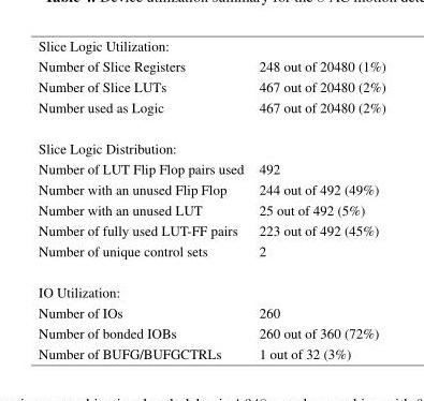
<table><tbody><tr><td colspan="2">Slice Logic Utilization:</td></tr><tr><td>Number of Slice Registers</td><td>248 out of 20480 (1%)</td></tr><tr><td>Number of Slice LUTs</td><td>467 out of 20480 (2%)</td></tr><tr><td>Number used as Logic</td><td>467 out of 20480 (2%)</td></tr><tr><td colspan="2">Slice Logic Distribution:</td></tr><tr><td>Number of LUT Flip Flop pairs used</td><td>492</td></tr><tr><td>Number with an unused Flip Flop</td><td>244 out of 492 (49%)</td></tr><tr><td>Number with an unused LUT</td><td>25 out of 492 (5%)</td></tr><tr><td>Number of fully used LUT-FF pairs</td><td>223 out of 492 (45%)</td></tr><tr><td>Number of unique control sets</td><td>2</td></tr><tr><td colspan="2">IO Utilization:</td></tr><tr><td>Number of IOs</td><td>260</td></tr><tr><td>Number of bonded IOBs</td><td>260 out of 360 (72%)</td></tr><tr><td>Number of BUFG/BUFGCTRLs</td><td>1 out of 32 (3%)</td></tr></tbody></table>